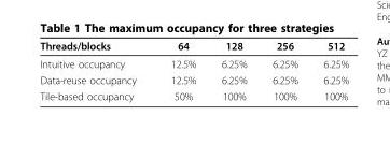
<table><thead><tr><td>Threads/blocks</td><td>64</td><td>128</td><td>256</td><td>512</td></tr></thead><tbody><tr><td>Intuitive occupancy</td><td>12.5%</td><td>6.25%</td><td>6.25%</td><td>6.25%</td></tr><tr><td>Data-reuse occupancy</td><td>12.5%</td><td>6.25%</td><td>6.25%</td><td>6.25%</td></tr><tr><td>Tile-based occupancy</td><td>50%</td><td>100%</td><td>100%</td><td>100%</td></tr></tbody></table>